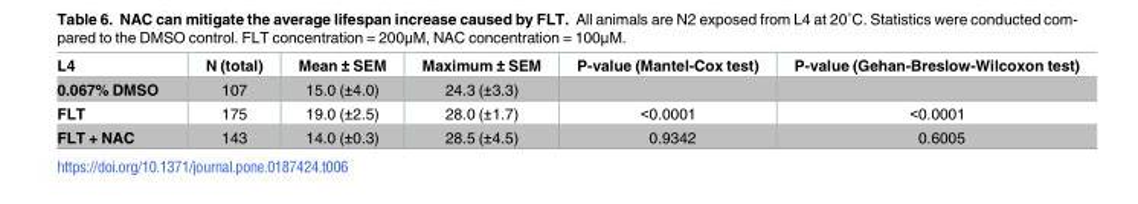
<table><thead><tr><td>L4</td><td>N (total)</td><td>Mean ± SEM</td><td>Maximum ± SEM</td><td>P-value (Mantel-Cox test)</td><td>P-value (Gehan-Breslow-Wilcoxon test)</td></tr></thead><tbody><tr><td>0.067% DMSO</td><td>107</td><td>15.0 (±4.0)</td><td>24.3 (±3.3)</td><td></td><td></td></tr><tr><td>FLT</td><td>175</td><td>19.0 (±2.5)</td><td>28.0 (±1.7)</td><td>&lt;0.0001</td><td>&lt;0.0001</td></tr><tr><td>FLT + NAC</td><td>143</td><td>14.0 (±0.3)</td><td>28.5 (±4.5)</td><td>0.9342</td><td>0.6005</td></tr></tbody></table>